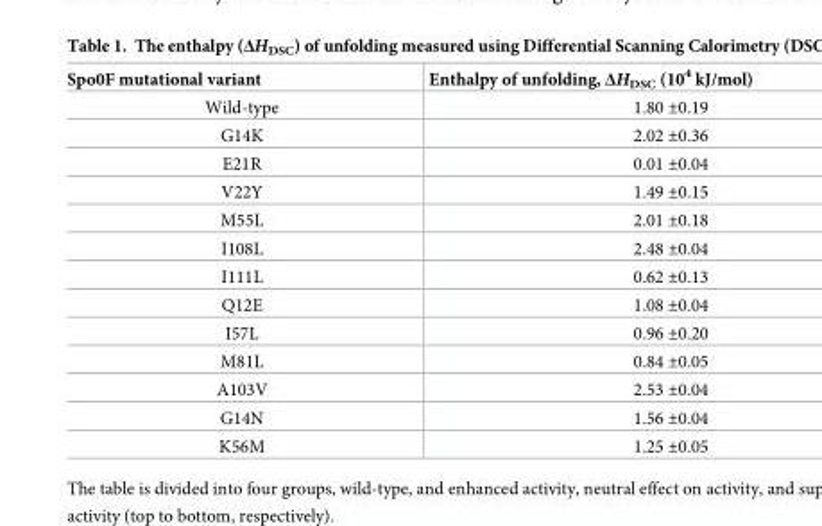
<table><thead><tr><td>Spo0F mutational variant</td><td>Enthalpy of unfolding, ΔH<sub>DSC</sub> (10<sup>4</sup> kJ/mol)</td></tr></thead><tbody><tr><td>Wild-type</td><td>1.80 ±0.19</td></tr><tr><td>G14K</td><td>2.02 ±0.36</td></tr><tr><td>E21R</td><td>0.01 ±0.04</td></tr><tr><td>V22Y</td><td>1.49 ±0.15</td></tr><tr><td>M55L</td><td>2.01 ±0.18</td></tr><tr><td>I108L</td><td>2.48 ±0.04</td></tr><tr><td>I111L</td><td>0.62 ±0.13</td></tr><tr><td>Q12E</td><td>1.08 ±0.04</td></tr><tr><td>I57L</td><td>0.96 ±0.20</td></tr><tr><td>M81L</td><td>0.84 ±0.05</td></tr><tr><td>A103V</td><td>2.53 ±0.04</td></tr><tr><td>G14N</td><td>1.56 ±0.04</td></tr><tr><td>K56M</td><td>1.25 ±0.05</td></tr></tbody></table>